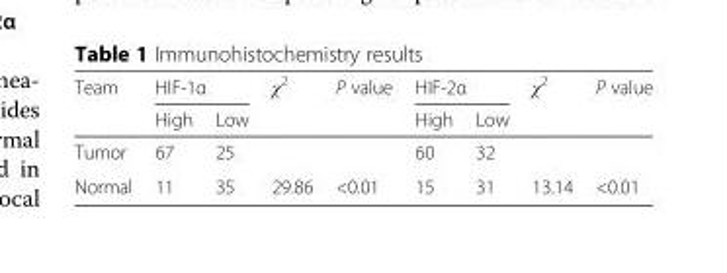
<table><thead><tr><td rowspan="2">Team</td><td colspan="2">HIF-1α</td><td rowspan="2">χ<sup>2</sup></td><td rowspan="2">P value</td><td colspan="2">HIF-2α</td><td rowspan="2">χ<sup>2</sup></td><td rowspan="2">P value</td></tr><tr><td>High</td><td>Low</td><td>High</td><td>Low</td></tr></thead><tbody><tr><td>Tumor</td><td>67</td><td>25</td><td></td><td></td><td>60</td><td>32</td><td></td><td></td></tr><tr><td>Normal</td><td>11</td><td>35</td><td>29.86</td><td>&lt;0.01</td><td>15</td><td>31</td><td>13.14</td><td>&lt;0.01</td></tr></tbody></table>